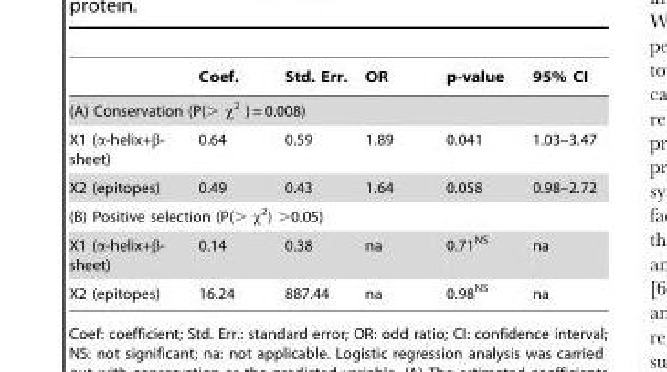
<table><thead><tr><td></td><td>Coef.</td><td>Std. Err.</td><td>OR</td><td>p-value</td><td>95% CI</td></tr></thead><tbody><tr><td colspan="6">(A) Conservation (P(&gt; χ<sup>2</sup> ) = 0.008)</td></tr><tr><td>X1 (α-helix+β- sheet)</td><td>0.64</td><td>0.59</td><td>1.89</td><td>0.041</td><td>1.03–3.47</td></tr><tr><td>X2 (epitopes)</td><td>0.49</td><td>0.43</td><td>1.64</td><td>0.058</td><td>0.98–2.72</td></tr><tr><td colspan="6">(B) Positive selection (P(&gt; χ<sup>2</sup>) &gt;0.05)</td></tr><tr><td>X1 (α-helix+β- sheet)</td><td>0.14</td><td>0.38</td><td>na</td><td>0.71<sup>NS</sup></td><td>na</td></tr><tr><td>X2 (epitopes)</td><td>16.24</td><td>887.44</td><td>na</td><td>0.98<sup>NS</sup></td><td>na</td></tr></tbody></table>